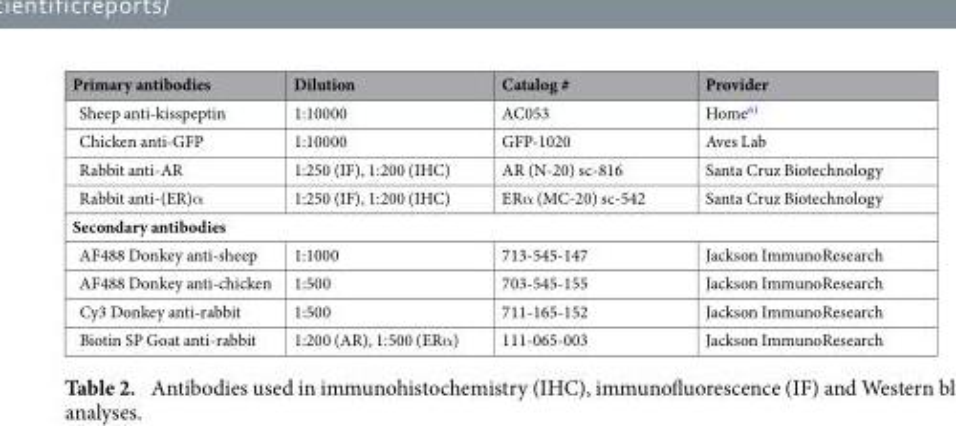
<table><thead><tr><td>Primary antibodies</td><td>Dilution</td><td>Catalog #</td><td>Provider</td></tr></thead><tbody><tr><td>Sheep anti-kisspeptin</td><td>1:10000</td><td>AC053</td><td>Home<sup>61</sup></td></tr><tr><td>Chicken anti-GFP</td><td>1:10000</td><td>GFP-1020</td><td>Aves Lab</td></tr><tr><td>Rabbit anti-AR</td><td>1:250 (IF), 1:200 (IHC)</td><td>AR (N-20) sc-816</td><td>Santa Cruz Biotechnology</td></tr><tr><td>Rabbit anti-(ER)α</td><td>1:250 (IF), 1:200 (IHC)</td><td>ERα (MC-20) sc-542</td><td>Santa Cruz Biotechnology</td></tr><tr><td colspan="4">Secondary antibodies</td></tr><tr><td>AF488 Donkey anti-sheep</td><td>1:1000</td><td>713-545-147</td><td>Jackson ImmunoResearch</td></tr><tr><td>AF488 Donkey anti-chicken</td><td>1:500</td><td>703-545-155</td><td>Jackson ImmunoResearch</td></tr><tr><td>Cy3 Donkey anti-rabbit</td><td>1:500</td><td>711-165-152</td><td>Jackson ImmunoResearch</td></tr><tr><td>Biotin SP Goat anti-rabbit</td><td>1:200 (AR), 1:500 (ERα)</td><td>111-065-003</td><td>Jackson ImmunoResearch</td></tr></tbody></table>